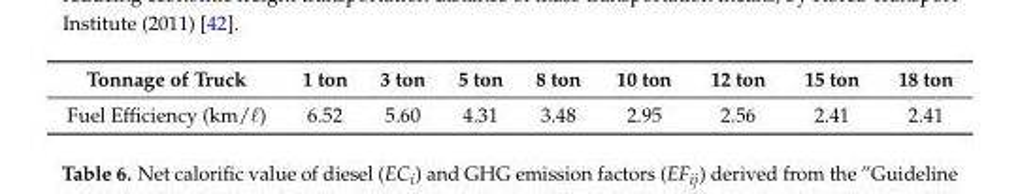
<table><thead><tr><td>Tonnage of Truck</td><td>1 ton</td><td>3 ton</td><td>5 ton</td><td>8 ton</td><td>10 ton</td><td>12 ton</td><td>15 ton</td><td>18 ton</td></tr></thead><tbody><tr><td>Fuel Efficiency (km/ℓ)</td><td>6.52</td><td>5.60</td><td>4.31</td><td>3.48</td><td>2.95</td><td>2.56</td><td>2.41</td><td>2.41</td></tr></tbody></table>